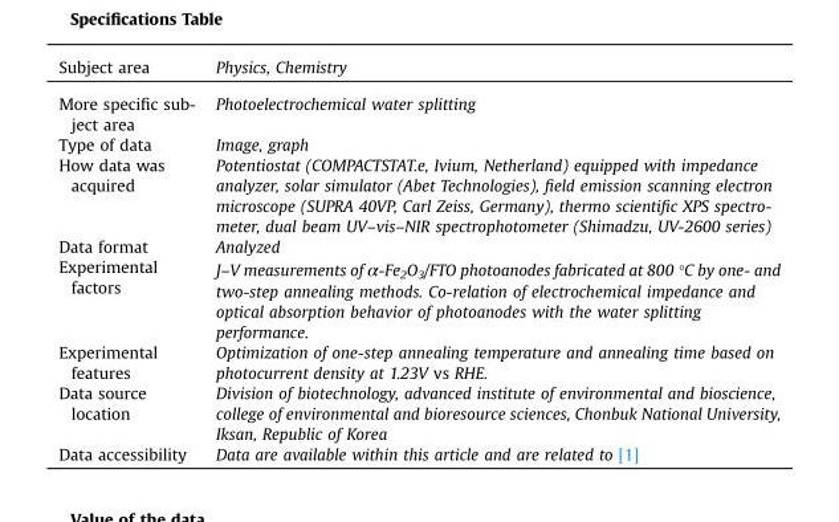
<table><thead><tr><td>Subject area</td><td>Physics, Chemistry</td></tr></thead><tbody><tr><td>More specific sub- ject area</td><td>Photoelectrochemical water splitting</td></tr><tr><td>Type of data</td><td>Image, graph</td></tr><tr><td>How data was acquired</td><td>Potentiostat (COMPACTSTAT.e, Ivium, Netherland) equipped with impedance analyzer, solar simulator (Abet Technologies), field emission scanning electron microscope (SUPRA 40VP, Carl Zeiss, Germany), thermo scientific XPS spectro- meter, dual beam UV–vis–NIR spectrophotometer (Shimadzu, UV-2600 series)</td></tr><tr><td>Data format</td><td>Analyzed</td></tr><tr><td>Experimental factors</td><td>J–V measurements of α-Fe<sub>2</sub>O<sub>3</sub>/FTO photoanodes fabricated at 800 °C by one- and two-step annealing methods. Co-relation of electrochemical impedance and optical absorption behavior of photoanodes with the water splitting performance.</td></tr><tr><td>Experimental features</td><td>Optimization of one-step annealing temperature and annealing time based on photocurrent density at 1.23V vs RHE.</td></tr><tr><td>Data source location</td><td>Division of biotechnology, advanced institute of environmental and bioscience, college of environmental and bioresource sciences, Chonbuk National University, Iksan, Republic of Korea</td></tr><tr><td>Data accessibility</td><td>Data are available within this article and are related to [1]</td></tr></tbody></table>